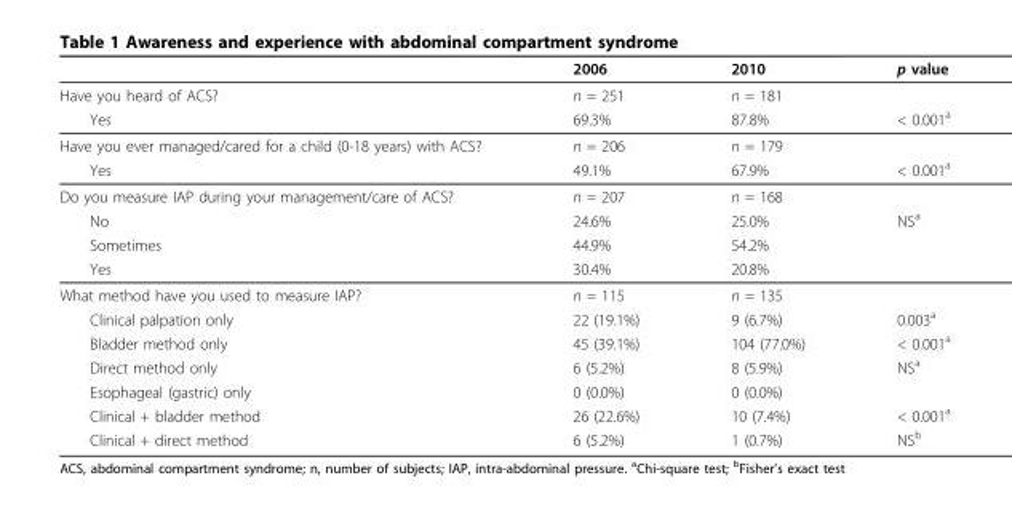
<table><thead><tr><td></td><td>2006</td><td>2010</td><td>p value</td></tr></thead><tbody><tr><td>Have you heard of ACS?</td><td>n = 251</td><td>n = 181</td><td></td></tr><tr><td>Yes</td><td>69.3%</td><td>87.8%</td><td>&lt; 0.001<sup>a</sup></td></tr><tr><td>Have you ever managed/cared for a child (0-18 years) with ACS?</td><td>n = 206</td><td>n = 179</td><td></td></tr><tr><td>Yes</td><td>49.1%</td><td>67.9%</td><td>&lt; 0.001<sup>a</sup></td></tr><tr><td>Do you measure IAP during your management/care of ACS?</td><td>n = 207</td><td>n = 168</td><td></td></tr><tr><td>No</td><td>24.6%</td><td>25.0%</td><td>NS<sup>a</sup></td></tr><tr><td>Sometimes</td><td>44.9%</td><td>54.2%</td><td></td></tr><tr><td>Yes</td><td>30.4%</td><td>20.8%</td><td></td></tr><tr><td>What method have you used to measure IAP?</td><td>n = 115</td><td>n = 135</td><td></td></tr><tr><td>Clinical palpation only</td><td>22 (19.1%)</td><td>9 (6.7%)</td><td>0.003<sup>a</sup></td></tr><tr><td>Bladder method only</td><td>45 (39.1%)</td><td>104 (77.0%)</td><td>&lt; 0.001<sup>a</sup></td></tr><tr><td>Direct method only</td><td>6 (5.2%)</td><td>8 (5.9%)</td><td>NS<sup>a</sup></td></tr><tr><td>Esophageal (gastric) only</td><td>0 (0.0%)</td><td>0 (0.0%)</td><td></td></tr><tr><td>Clinical + bladder method</td><td>26 (22.6%)</td><td>10 (7.4%)</td><td>&lt; 0.001<sup>a</sup></td></tr><tr><td>Clinical + direct method</td><td>6 (5.2%)</td><td>1 (0.7%)</td><td>NS<sup>b</sup></td></tr></tbody></table>